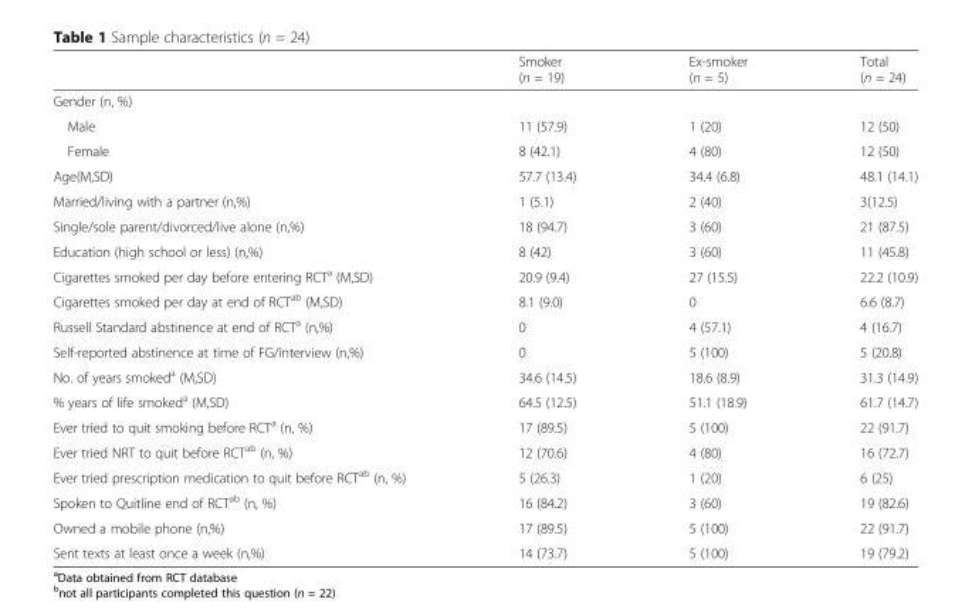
<table><thead><tr><td></td><td>Smoker (n = 19)</td><td>Ex-smoker (n = 5)</td><td>Total (n = 24)</td></tr></thead><tbody><tr><td colspan="4">Gender (n, %)</td></tr><tr><td>Male</td><td>11 (57.9)</td><td>1 (20)</td><td>12 (50)</td></tr><tr><td>Female</td><td>8 (42.1)</td><td>4 (80)</td><td>12 (50)</td></tr><tr><td>Age(M,SD)</td><td>57.7 (13.4)</td><td>34.4 (6.8)</td><td>48.1 (14.1)</td></tr><tr><td>Married/living with a partner (n,%)</td><td>1 (5.1)</td><td>2 (40)</td><td>3(12.5)</td></tr><tr><td>Single/sole parent/divorced/live alone (n,%)</td><td>18 (94.7)</td><td>3 (60)</td><td>21 (87.5)</td></tr><tr><td>Education (high school or less) (n,%)</td><td>8 (42)</td><td>3 (60)</td><td>11 (45.8)</td></tr><tr><td>Cigarettes smoked per day before entering RCT<sup>a</sup> (M,SD)</td><td>20.9 (9.4)</td><td>27 (15.5)</td><td>22.2 (10.9)</td></tr><tr><td>Cigarettes smoked per day at end of RCT<sup>ab</sup> (M,SD)</td><td>8.1 (9.0)</td><td>0</td><td>6.6 (8.7)</td></tr><tr><td>Russell Standard abstinence at end of RCT<sup>a</sup> (n,%)</td><td>0</td><td>4 (57.1)</td><td>4 (16.7)</td></tr><tr><td>Self-reported abstinence at time of FG/interview (n,%)</td><td>0</td><td>5 (100)</td><td>5 (20.8)</td></tr><tr><td>No. of years smoked<sup>a</sup> (M,SD)</td><td>34.6 (14.5)</td><td>18.6 (8.9)</td><td>31.3 (14.9)</td></tr><tr><td>% years of life smoked<sup>a</sup> (M,SD)</td><td>64.5 (12.5)</td><td>51.1 (18.9)</td><td>61.7 (14.7)</td></tr><tr><td>Ever tried to quit smoking before RCT<sup>a</sup> (n, %)</td><td>17 (89.5)</td><td>5 (100)</td><td>22 (91.7)</td></tr><tr><td>Ever tried NRT to quit before RCT<sup>ab</sup> (n, %)</td><td>12 (70.6)</td><td>4 (80)</td><td>16 (72.7)</td></tr><tr><td>Ever tried prescription medication to quit before RCT<sup>ab</sup> (n, %)</td><td>5 (26.3)</td><td>1 (20)</td><td>6 (25)</td></tr><tr><td>Spoken to Quitline end of RCT<sup>ab</sup> (n, %)</td><td>16 (84.2)</td><td>3 (60)</td><td>19 (82.6)</td></tr><tr><td>Owned a mobile phone (n,%)</td><td>17 (89.5)</td><td>5 (100)</td><td>22 (91.7)</td></tr><tr><td>Sent texts at least once a week (n,%)</td><td>14 (73.7)</td><td>5 (100)</td><td>19 (79.2)</td></tr></tbody></table>